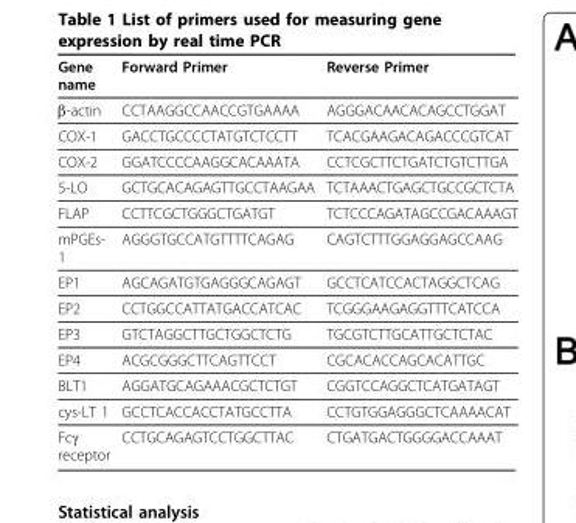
<table><thead><tr><td>Gene name</td><td>Forward Primer</td><td>Reverse Primer</td></tr></thead><tbody><tr><td>β-actin</td><td>CCTAAGGCCAACCGTGAAAA</td><td>AGGGACAACACAGCCTGGAT</td></tr><tr><td>COX-1</td><td>GACCTGCCCCTATGTCTCCTT</td><td>TCACGAAGACAGACCCGTCAT</td></tr><tr><td>COX-2</td><td>GGATCCCCAAGGCACAAATA</td><td>CCTCGCTTCTGATCTGTCTTGA</td></tr><tr><td>5-LO</td><td>GCTGCACAGAGTTGCCTAAGAA</td><td>TCTAAACTGAGCTGCCGCTCTA</td></tr><tr><td>FLAP</td><td>CCTTCGCTGGGCTGATGT</td><td>TCTCCCAGATAGCCGACAAAGT</td></tr><tr><td>mPGEs- 1</td><td>AGGGTGCCATGTTTTCAGAG</td><td>CAGTCTTTGGAGGAGCCAAG</td></tr><tr><td>EP1</td><td>AGCAGATGTGAGGGCAGAGT</td><td>GCCTCATCCACTAGGCTCAG</td></tr><tr><td>EP2</td><td>CCTGGCCATTATGACCATCAC</td><td>TCGGGAAGAGGTTTCATCCA</td></tr><tr><td>EP3</td><td>GTCTAGGCTTGCTGGCTCTG</td><td>TGCGTCTTGCATTGCTCTAC</td></tr><tr><td>EP4</td><td>ACGCGGGCTTCAGTTCCT</td><td>CGCACACCAGCACATTGC</td></tr><tr><td>BLT1</td><td>AGGATGCAGAAACGCTCTGT</td><td>CGGTCCAGGCTCATGATAGT</td></tr><tr><td>cys-LT 1</td><td>GCCTCACCACCTATGCCTTA</td><td>CCTGTGGAGGGCTCAAAACAT</td></tr><tr><td>Fcγ receptor</td><td>CCTGCAGAGTCCTGGCTTAC</td><td>CTGATGACTGGGGACCAAAT</td></tr></tbody></table>